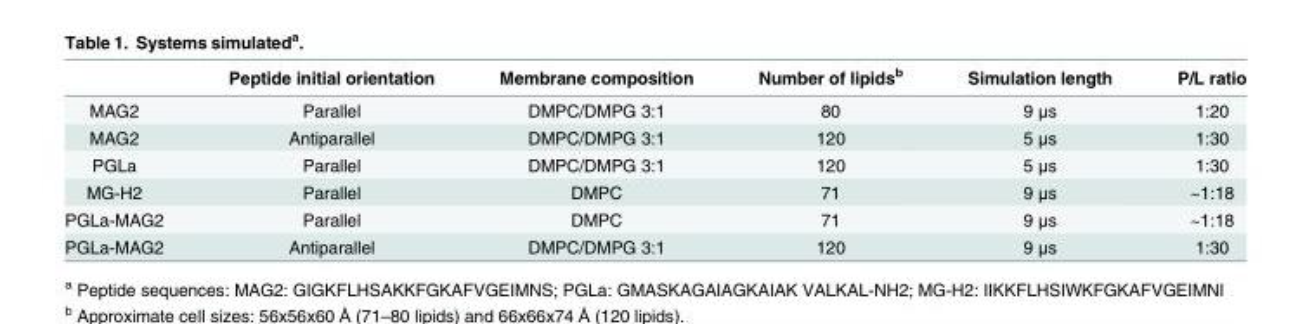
<table><thead><tr><td></td><td>Peptide initial orientation</td><td>Membrane composition</td><td>Number of lipids<sup>b</sup></td><td>Simulation length</td><td>P/L ratio</td></tr></thead><tbody><tr><td>MAG2</td><td>Parallel</td><td>DMPC/DMPG 3:1</td><td>80</td><td>9 μs</td><td>1:20</td></tr><tr><td>MAG2</td><td>Antiparallel</td><td>DMPC/DMPG 3:1</td><td>120</td><td>5 μs</td><td>1:30</td></tr><tr><td>PGLa</td><td>Parallel</td><td>DMPC/DMPG 3:1</td><td>120</td><td>5 μs</td><td>1:30</td></tr><tr><td>MG-H2</td><td>Parallel</td><td>DMPC</td><td>71</td><td>9 μs</td><td>~1:18</td></tr><tr><td>PGLa-MAG2</td><td>Parallel</td><td>DMPC</td><td>71</td><td>9 μs</td><td>~1:18</td></tr><tr><td>PGLa-MAG2</td><td>Antiparallel</td><td>DMPC/DMPG 3:1</td><td>120</td><td>9 μs</td><td>1:30</td></tr></tbody></table>